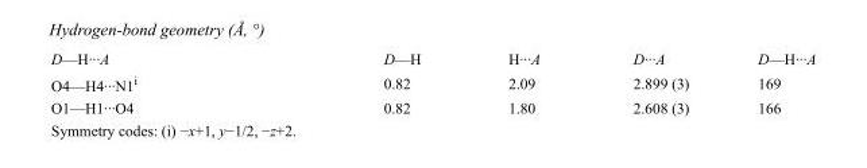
<table><tbody><tr><td>D—H···A</td><td>D—H</td><td>H···A</td><td>D···A</td><td>D—H···A</td></tr><tr><td>O4—H4···N1<sup>i</sup></td><td>0.82</td><td>2.09</td><td>2.899 (3)</td><td>169</td></tr><tr><td>O1—H1···O4</td><td>0.82</td><td>1.80</td><td>2.608 (3)</td><td>166</td></tr></tbody></table>